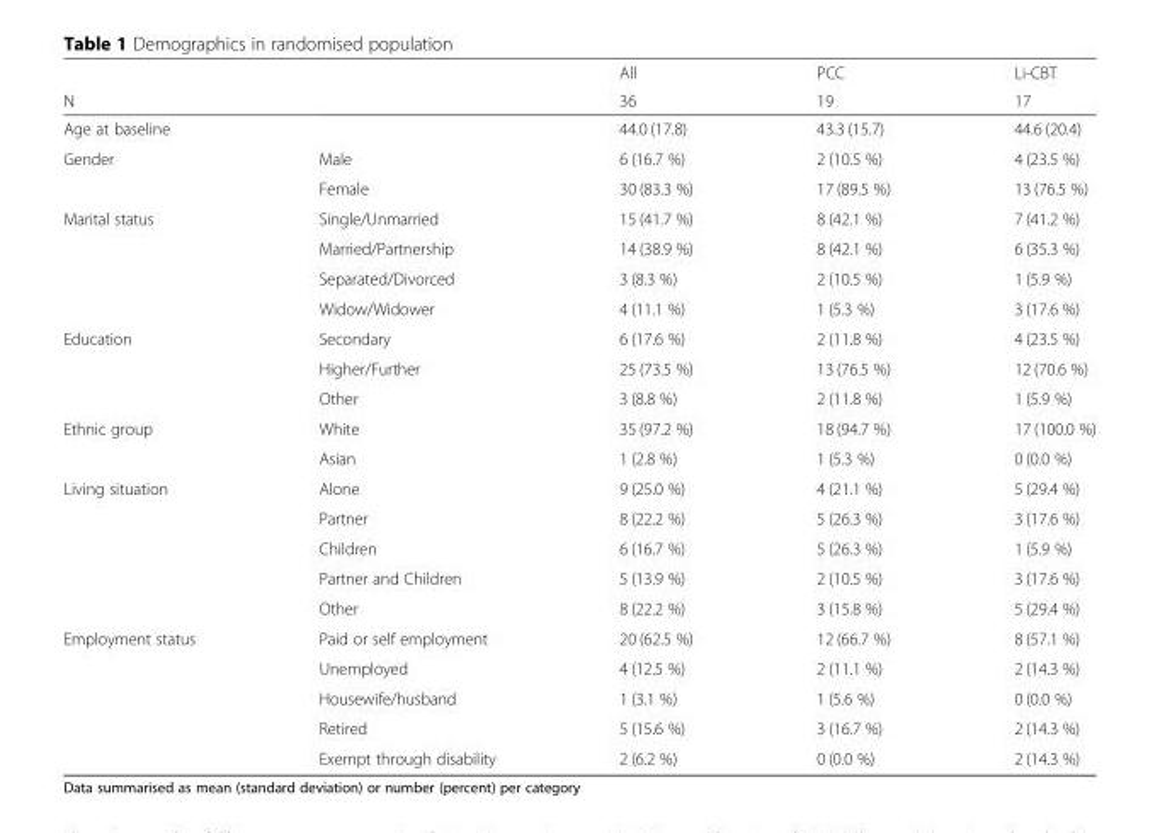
<table><thead><tr><td rowspan="2">N</td><td rowspan="2"></td><td rowspan="2">All 36</td><td rowspan="2">PCC 19</td><td rowspan="2">Li-CBT 17</td></tr><tr></tr></thead><tbody><tr><td>Age at baseline</td><td></td><td>44.0 (17.8)</td><td>43.3 (15.7)</td><td>44.6 (20.4)</td></tr><tr><td rowspan="2">Gender</td><td>Male</td><td>6 (16.7 %)</td><td>2 (10.5 %)</td><td>4 (23.5 %)</td></tr><tr><td>Female</td><td>30 (83.3 %)</td><td>17 (89.5 %)</td><td>13 (76.5 %)</td></tr><tr><td rowspan="4">Marital status</td><td>Single/Unmarried</td><td>15 (41.7 %)</td><td>8 (42.1 %)</td><td>7 (41.2 %)</td></tr><tr><td>Married/Partnership</td><td>14 (38.9 %)</td><td>8 (42.1 %)</td><td>6 (35.3 %)</td></tr><tr><td>Separated/Divorced</td><td>3 (8.3 %)</td><td>2 (10.5 %)</td><td>1 (5.9 %)</td></tr><tr><td>Widow/Widower</td><td>4 (11.1 %)</td><td>1 (5.3 %)</td><td>3 (17.6 %)</td></tr><tr><td rowspan="3">Education</td><td>Secondary</td><td>6 (17.6 %)</td><td>2 (11.8 %)</td><td>4 (23.5 %)</td></tr><tr><td>Higher/Further</td><td>25 (73.5 %)</td><td>13 (76.5 %)</td><td>12 (70.6 %)</td></tr><tr><td>Other</td><td>3 (8.8 %)</td><td>2 (11.8 %)</td><td>1 (5.9 %)</td></tr><tr><td rowspan="2">Ethnic group</td><td>White</td><td>35 (97.2 %)</td><td>18 (94.7 %)</td><td>17 (100.0 %)</td></tr><tr><td>Asian</td><td>1 (2.8 %)</td><td>1 (5.3 %)</td><td>0 (0.0 %)</td></tr><tr><td rowspan="5">Living situation</td><td>Alone</td><td>9 (25.0 %)</td><td>4 (21.1 %)</td><td>5 (29.4 %)</td></tr><tr><td>Partner</td><td>8 (22.2 %)</td><td>5 (26.3 %)</td><td>3 (17.6 %)</td></tr><tr><td>Children</td><td>6 (16.7 %)</td><td>5 (26.3 %)</td><td>1 (5.9 %)</td></tr><tr><td>Partner and Children</td><td>5 (13.9 %)</td><td>2 (10.5 %)</td><td>3 (17.6 %)</td></tr><tr><td>Other</td><td>8 (22.2 %)</td><td>3 (15.8 %)</td><td>5 (29.4 %)</td></tr><tr><td rowspan="5">Employment status</td><td>Paid or self employment</td><td>20 (62.5 %)</td><td>12 (66.7 %)</td><td>8 (57.1 %)</td></tr><tr><td>Unemployed</td><td>4 (12.5 %)</td><td>2 (11.1 %)</td><td>2 (14.3 %)</td></tr><tr><td>Housewife/husband</td><td>1 (3.1 %)</td><td>1 (5.6 %)</td><td>0 (0.0 %)</td></tr><tr><td>Retired</td><td>5 (15.6 %)</td><td>3 (16.7 %)</td><td>2 (14.3 %)</td></tr><tr><td>Exempt through disability</td><td>2 (6.2 %)</td><td>0 (0.0 %)</td><td>2 (14.3 %)</td></tr></tbody></table>